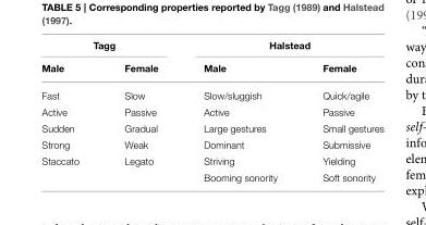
<table><thead><tr><td colspan="2">Tagg</td><td colspan="2">Halstead</td></tr><tr><td>Male</td><td>Female</td><td>Male</td><td>Female</td></tr></thead><tbody><tr><td>Fast</td><td>Slow</td><td>Slow/sluggish</td><td>Quick/agile</td></tr><tr><td>Active</td><td>Passive</td><td>Active</td><td>Passive</td></tr><tr><td>Sudden</td><td>Gradual</td><td>Large gestures</td><td>Small gestures</td></tr><tr><td>Strong</td><td>Weak</td><td>Dominant</td><td>Submissive</td></tr><tr><td rowspan="2">Staccato</td><td>Legato</td><td>Striving</td><td>Yielding</td></tr><tr><td></td><td>Booming sonority</td><td>Soft sonority</td></tr></tbody></table>